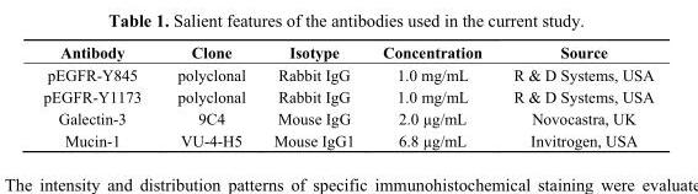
<table><thead><tr><td>Antibody</td><td>Clone</td><td>Isotype</td><td>Concentration</td><td>Source</td></tr></thead><tbody><tr><td>pEGFR-Y845</td><td>polyclonal</td><td>Rabbit IgG</td><td>1.0 mg/mL</td><td>R &amp; D Systems, USA</td></tr><tr><td>pEGFR-Y1173</td><td>polyclonal</td><td>Rabbit IgG</td><td>1.0 mg/mL</td><td>R &amp; D Systems, USA</td></tr><tr><td>Galectin-3</td><td>9C4</td><td>Mouse IgG</td><td>2.0 µg/mL</td><td>Novocastra, UK</td></tr><tr><td>Mucin-1</td><td>VU-4-H5</td><td>Mouse IgG1</td><td>6.8 µg/mL</td><td>Invitrogen, USA</td></tr></tbody></table>